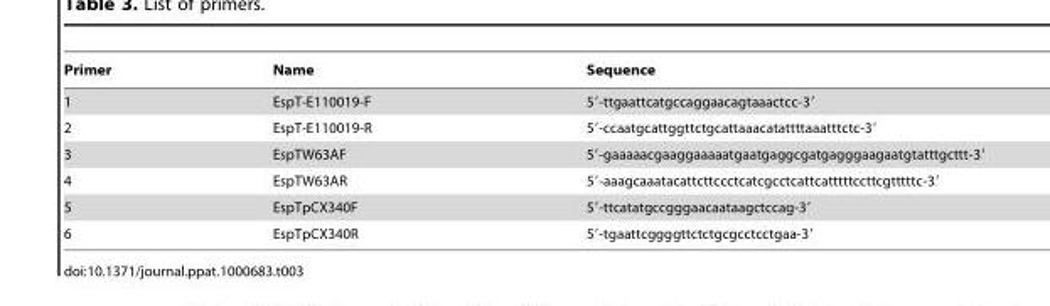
<table><thead><tr><td>Primer</td><td>Name</td><td>Sequence</td></tr></thead><tbody><tr><td>1</td><td>EspT-E110019-F</td><td>5′-ttgaattcatgccaggaacagtaaactcc-3′</td></tr><tr><td>2</td><td>EspT-E110019-R</td><td>5′-ccaatgcattggttctgcattaaacatattttaaatttctc-3′</td></tr><tr><td>3</td><td>EspTW63AF</td><td>5′-gaaaaacgaaggaaaaatgaatgaggcgatgagggaagaatgtatttgcttt-3′</td></tr><tr><td>4</td><td>EspTW63AR</td><td>5′-aaagcaaatacattcttccctcatcgcctcattcatttttccttcgtttttc-3′</td></tr><tr><td>5</td><td>EspTpCX340F</td><td>5′-ttcatatgccgggaacaataagctccag-3′</td></tr><tr><td>6</td><td>EspTpCX340R</td><td>5′-tgaattcggggttctctgcgcctcctgaa-3′</td></tr></tbody></table>